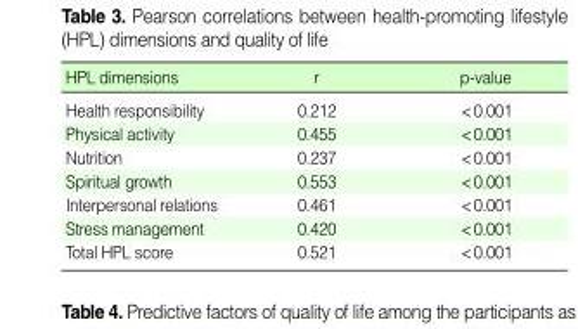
<table><thead><tr><td>HPL dimensions</td><td>r</td><td>p-value</td></tr></thead><tbody><tr><td>Health responsibility</td><td>0.212</td><td>&lt;0.001</td></tr><tr><td>Physical activity</td><td>0.455</td><td>&lt;0.001</td></tr><tr><td>Nutrition</td><td>0.237</td><td>&lt;0.001</td></tr><tr><td>Spiritual growth</td><td>0.553</td><td>&lt;0.001</td></tr><tr><td>Interpersonal relations</td><td>0.461</td><td>&lt;0.001</td></tr><tr><td>Stress management</td><td>0.420</td><td>&lt;0.001</td></tr><tr><td>Total HPL score</td><td>0.521</td><td>&lt;0.001</td></tr></tbody></table>